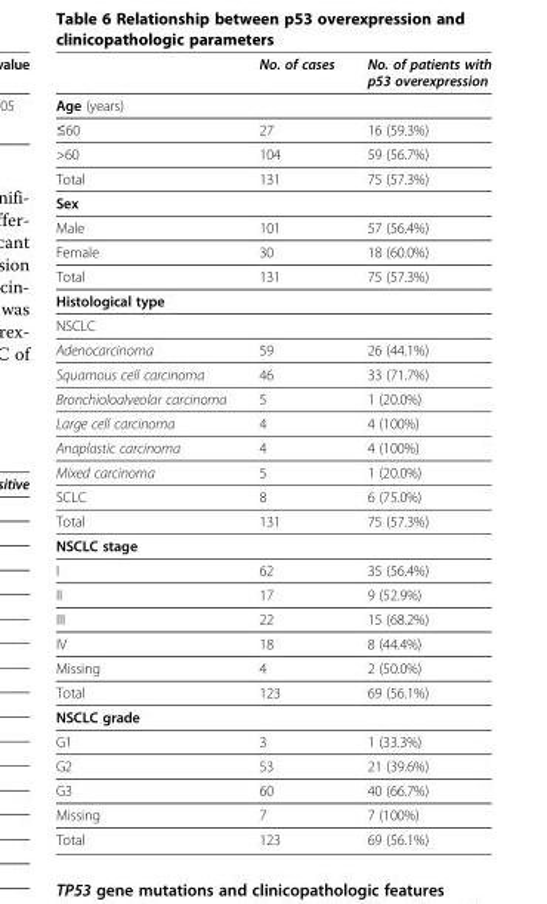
<table><thead><tr><td></td><td>No. of cases</td><td>No. of patients with p53 overexpression</td></tr></thead><tbody><tr><td colspan="3">Age (years)</td></tr><tr><td>≤60</td><td>27</td><td>16 (59.3%)</td></tr><tr><td>&gt;60</td><td>104</td><td>59 (56.7%)</td></tr><tr><td>Total</td><td>131</td><td>75 (57.3%)</td></tr><tr><td colspan="3">Sex</td></tr><tr><td>Male</td><td>101</td><td>57 (56.4%)</td></tr><tr><td>Female</td><td>30</td><td>18 (60.0%)</td></tr><tr><td>Total</td><td>131</td><td>75 (57.3%)</td></tr><tr><td colspan="3">Histological type</td></tr><tr><td colspan="3">NSCLC</td></tr><tr><td>Adenocarcinoma</td><td>59</td><td>26 (44.1%)</td></tr><tr><td>Squamous cell carcinoma</td><td>46</td><td>33 (71.7%)</td></tr><tr><td>Bronchioloalveolar carcinoma</td><td>5</td><td>1 (20.0%)</td></tr><tr><td>Large cell carcinoma</td><td>4</td><td>4 (100%)</td></tr><tr><td>Anaplastic carcinoma</td><td>4</td><td>4 (100%)</td></tr><tr><td>Mixed carcinoma</td><td>5</td><td>1 (20.0%)</td></tr><tr><td>SCLC</td><td>8</td><td>6 (75.0%)</td></tr><tr><td>Total</td><td>131</td><td>75 (57.3%)</td></tr><tr><td colspan="3">NSCLC stage</td></tr><tr><td>I</td><td>62</td><td>35 (56.4%)</td></tr><tr><td>II</td><td>17</td><td>9 (52.9%)</td></tr><tr><td>III</td><td>22</td><td>15 (68.2%)</td></tr><tr><td>IV</td><td>18</td><td>8 (44.4%)</td></tr><tr><td>Missing</td><td>4</td><td>2 (50.0%)</td></tr><tr><td>Total</td><td>123</td><td>69 (56.1%)</td></tr><tr><td colspan="3">NSCLC grade</td></tr><tr><td>G1</td><td>3</td><td>1 (33.3%)</td></tr><tr><td>G2</td><td>53</td><td>21 (39.6%)</td></tr><tr><td>G3</td><td>60</td><td>40 (66.7%)</td></tr><tr><td>Missing</td><td>7</td><td>7 (100%)</td></tr><tr><td>Total</td><td>123</td><td>69 (56.1%)</td></tr></tbody></table>